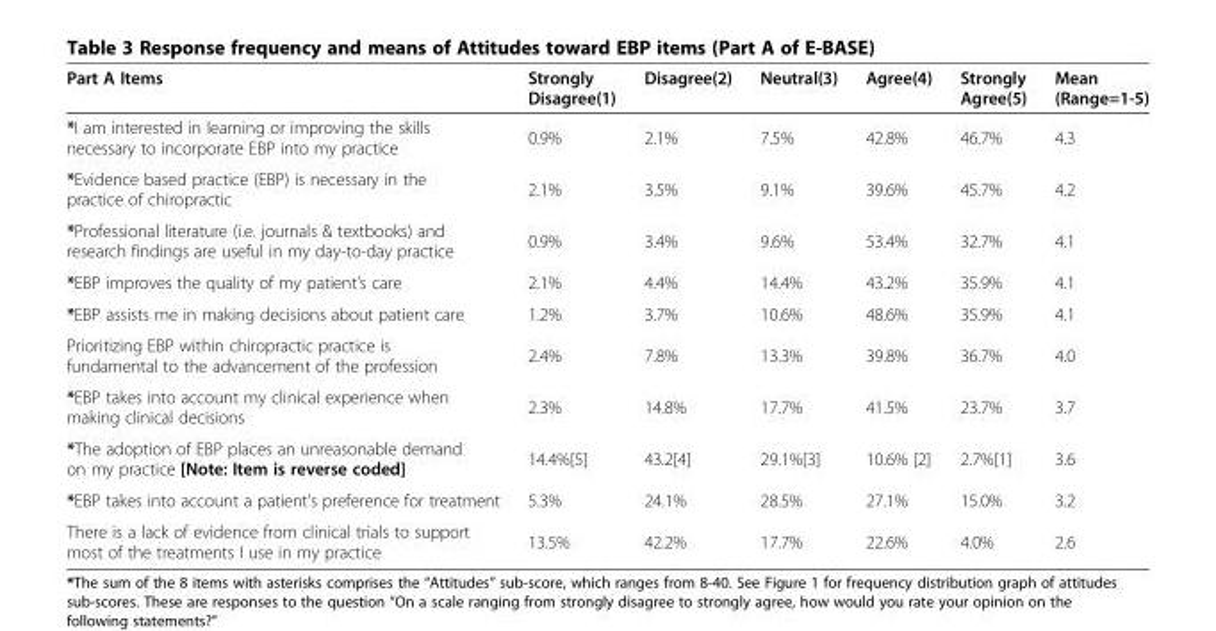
<table><thead><tr><td>Part A Items</td><td>Strongly Disagree(1)</td><td>Disagree(2)</td><td>Neutral(3)</td><td>Agree(4)</td><td>Strongly Agree(5)</td><td>Mean (Range=1-5)</td></tr></thead><tbody><tr><td>*I am interested in learning or improving the skills necessary to incorporate EBP into my practice</td><td>0.9%</td><td>2.1%</td><td>7.5%</td><td>42.8%</td><td>46.7%</td><td>4.3</td></tr><tr><td>*Evidence based practice (EBP) is necessary in the practice of chiropractic</td><td>2.1%</td><td>3.5%</td><td>9.1%</td><td>39.6%</td><td>45.7%</td><td>4.2</td></tr><tr><td>*Professional literature (i.e. journals &amp; textbooks) and research findings are useful in my day-to-day practice</td><td>0.9%</td><td>3.4%</td><td>9.6%</td><td>53.4%</td><td>32.7%</td><td>4.1</td></tr><tr><td>*EBP improves the quality of my patient’s care</td><td>2.1%</td><td>4.4%</td><td>14.4%</td><td>43.2%</td><td>35.9%</td><td>4.1</td></tr><tr><td>*EBP assists me in making decisions about patient care</td><td>1.2%</td><td>3.7%</td><td>10.6%</td><td>48.6%</td><td>35.9%</td><td>4.1</td></tr><tr><td>Prioritizing EBP within chiropractic practice is fundamental to the advancement of the profession</td><td>2.4%</td><td>7.8%</td><td>13.3%</td><td>39.8%</td><td>36.7%</td><td>4.0</td></tr><tr><td>*EBP takes into account my clinical experience when making clinical decisions</td><td>2.3%</td><td>14.8%</td><td>17.7%</td><td>41.5%</td><td>23.7%</td><td>3.7</td></tr><tr><td>*The adoption of EBP places an unreasonable demand on my practice [Note: Item is reverse coded]</td><td>14.4%[5]</td><td>43.2[4]</td><td>29.1%[3]</td><td>10.6% [2]</td><td>2.7%[1]</td><td>3.6</td></tr><tr><td>*EBP takes into account a patient’s preference for treatment</td><td>5.3%</td><td>24.1%</td><td>28.5%</td><td>27.1%</td><td>15.0%</td><td>3.2</td></tr><tr><td>There is a lack of evidence from clinical trials to support most of the treatments I use in my practice</td><td>13.5%</td><td>42.2%</td><td>17.7%</td><td>22.6%</td><td>4.0%</td><td>2.6</td></tr></tbody></table>